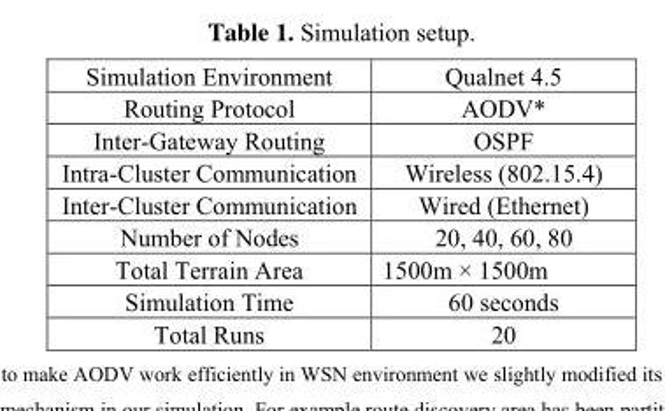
<table><tbody><tr><td>Simulation Environment</td><td>Qualnet 4.5</td></tr><tr><td>Routing Protocol</td><td>AODV*</td></tr><tr><td>Inter-Gateway Routing</td><td>OSPF</td></tr><tr><td>Intra-Cluster Communication</td><td>Wireless (802.15.4)</td></tr><tr><td>Inter-Cluster Communication</td><td>Wired (Ethernet)</td></tr><tr><td>Number of Nodes</td><td>20, 40, 60, 80</td></tr><tr><td>Total Terrain Area</td><td>1500m × 1500m</td></tr><tr><td>Simulation Time</td><td>60 seconds</td></tr><tr><td>Total Runs</td><td>20</td></tr></tbody></table>